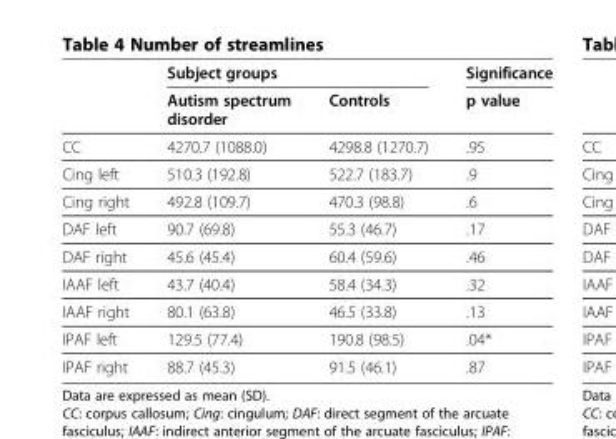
<table><thead><tr><td rowspan="2"></td><td colspan="2">Subject groups</td><td rowspan="2">Significance p value</td></tr><tr><td>Autism spectrum disorder</td><td>Controls</td></tr></thead><tbody><tr><td>CC</td><td>4270.7 (1088.0)</td><td>4298.8 (1270.7)</td><td>.95</td></tr><tr><td>Cing left</td><td>510.3 (192.8)</td><td>522.7 (183.7)</td><td>.9</td></tr><tr><td>Cing right</td><td>492.8 (109.7)</td><td>470.3 (98.8)</td><td>.6</td></tr><tr><td>DAF left</td><td>90.7 (69.8)</td><td>55.3 (46.7)</td><td>.17</td></tr><tr><td>DAF right</td><td>45.6 (45.4)</td><td>60.4 (59.6)</td><td>.46</td></tr><tr><td>IAAF left</td><td>43.7 (40.4)</td><td>58.4 (34.3)</td><td>.32</td></tr><tr><td>IAAF right</td><td>80.1 (63.8)</td><td>46.5 (33.8)</td><td>.13</td></tr><tr><td>IPAF left</td><td>129.5 (77.4)</td><td>190.8 (98.5)</td><td>.04*</td></tr><tr><td>IPAF right</td><td>88.7 (45.3)</td><td>91.5 (46.1)</td><td>.87</td></tr></tbody></table>